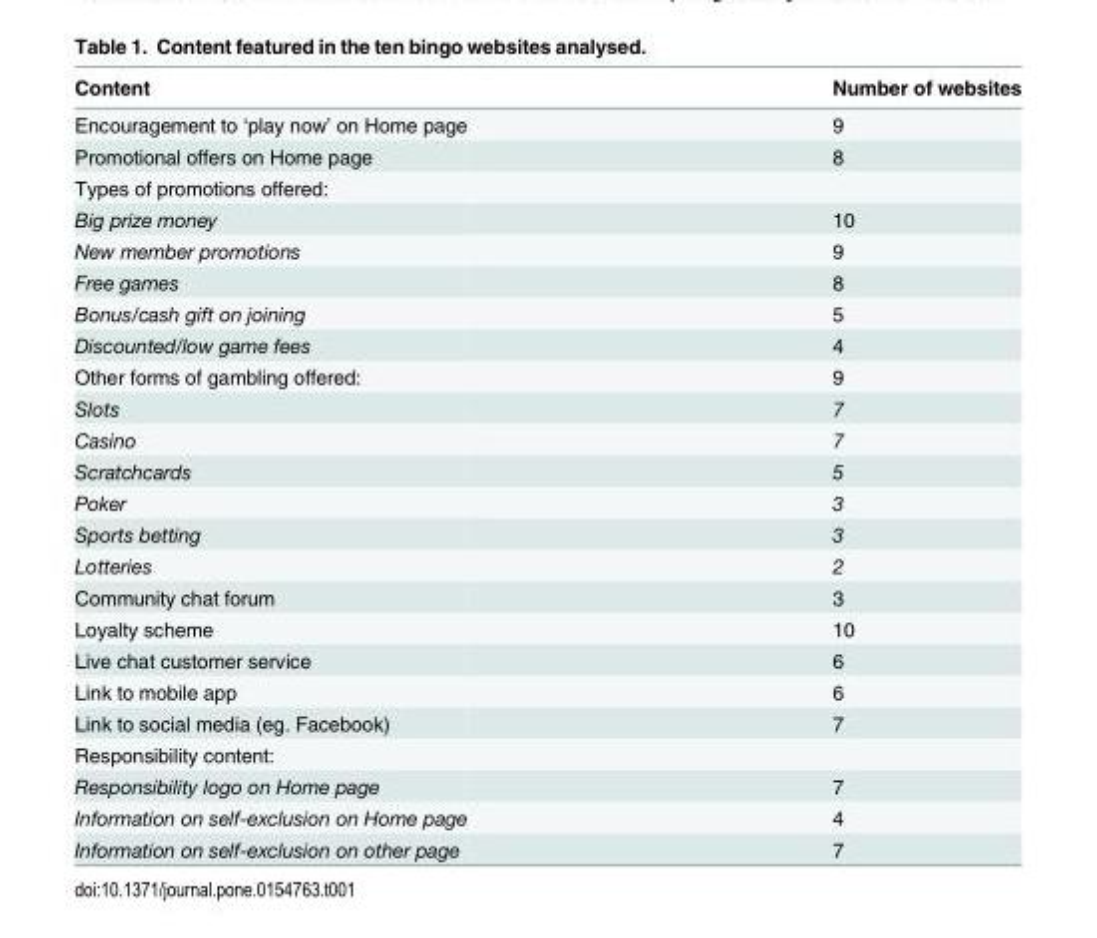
<table><thead><tr><td>Content</td><td>Number of websites</td></tr></thead><tbody><tr><td>Encouragement to ‘play now’ on Home page</td><td>9</td></tr><tr><td>Promotional offers on Home page</td><td>8</td></tr><tr><td colspan="2">Types of promotions offered:</td></tr><tr><td>Big prize money</td><td>10</td></tr><tr><td>New member promotions</td><td>9</td></tr><tr><td>Free games</td><td>8</td></tr><tr><td>Bonus/cash gift on joining</td><td>5</td></tr><tr><td>Discounted/low game fees</td><td>4</td></tr><tr><td>Other forms of gambling offered:</td><td>9</td></tr><tr><td>Slots</td><td>7</td></tr><tr><td>Casino</td><td>7</td></tr><tr><td>Scratchcards</td><td>5</td></tr><tr><td>Poker</td><td>3</td></tr><tr><td>Sports betting</td><td>3</td></tr><tr><td>Lotteries</td><td>2</td></tr><tr><td>Community chat forum</td><td>3</td></tr><tr><td>Loyalty scheme</td><td>10</td></tr><tr><td>Live chat customer service</td><td>6</td></tr><tr><td>Link to mobile app</td><td>6</td></tr><tr><td>Link to social media (eg. Facebook)</td><td>7</td></tr><tr><td colspan="2">Responsibility content:</td></tr><tr><td>Responsibility logo on Home page</td><td>7</td></tr><tr><td>Information on self-exclusion on Home page</td><td>4</td></tr><tr><td>Information on self-exclusion on other page</td><td>7</td></tr></tbody></table>